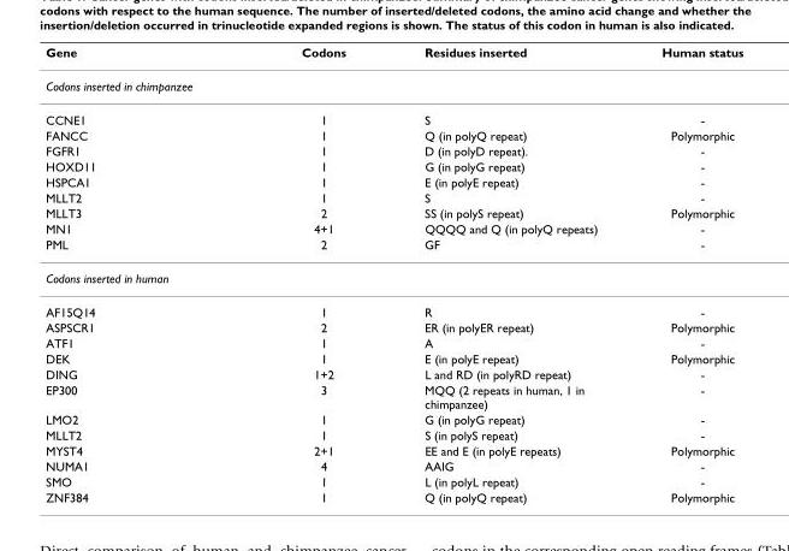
<table><thead><tr><td>Gene</td><td>Codons</td><td>Residues inserted</td><td>Human status</td></tr></thead><tbody><tr><td colspan="4">Codons inserted in chimpanzee</td></tr><tr><td>CCNE1</td><td>1</td><td>S</td><td>-</td></tr><tr><td>FANCC</td><td>1</td><td>Q (in polyQ repeat)</td><td>Polymorphic</td></tr><tr><td>FGFR1</td><td>1</td><td>D (in polyD repeat).</td><td>-</td></tr><tr><td>HOXD11</td><td>1</td><td>G (in polyG repeat)</td><td>-</td></tr><tr><td>HSPCA1</td><td>1</td><td>E (in polyE repeat)</td><td>-</td></tr><tr><td>MLLT2</td><td>1</td><td>S</td><td>-</td></tr><tr><td>MLLT3</td><td>2</td><td>SS (in polyS repeat)</td><td>Polymorphic</td></tr><tr><td>MN1</td><td>4+1</td><td>QQQQ and Q (in polyQ repeats)</td><td>-</td></tr><tr><td>PML</td><td>2</td><td>GF</td><td>-</td></tr><tr><td colspan="4">Codons inserted in human</td></tr><tr><td>AF15Q14</td><td>1</td><td>R</td><td>-</td></tr><tr><td>ASPSCR1</td><td>2</td><td>ER (in polyER repeat)</td><td>Polymorphic</td></tr><tr><td>ATF1</td><td>1</td><td>A</td><td>-</td></tr><tr><td>DEK</td><td>1</td><td>E (in polyE repeat)</td><td>Polymorphic</td></tr><tr><td>DING</td><td>1+2</td><td>L and RD (in polyRD repeat)</td><td>-</td></tr><tr><td>EP300</td><td>3</td><td>MQQ (2 repeats in human, 1 in chimpanzee)</td><td>-</td></tr><tr><td>LMO2</td><td>1</td><td>G (in polyG repeat)</td><td>-</td></tr><tr><td>MLLT2</td><td>1</td><td>S (in polyS repeat)</td><td>-</td></tr><tr><td>MYST4</td><td>2+1</td><td>EE and E (in polyE repeats)</td><td>Polymorphic</td></tr><tr><td>NUMA1</td><td>4</td><td>AAIG</td><td>-</td></tr><tr><td>SMO</td><td>1</td><td>L (in polyL repeat)</td><td>-</td></tr><tr><td>ZNF384</td><td>1</td><td>Q (in polyQ repeat)</td><td>Polymorphic</td></tr></tbody></table>